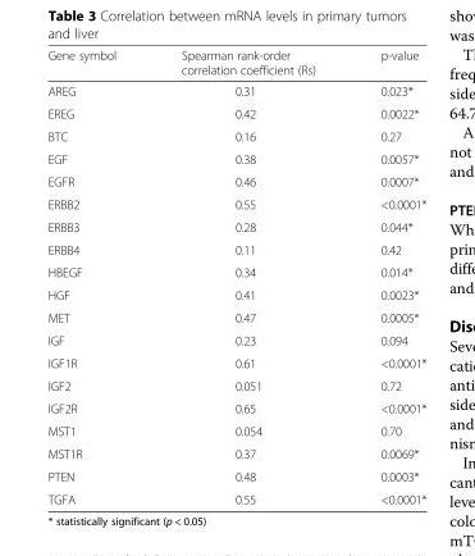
<table><thead><tr><td>Gene symbol</td><td>Spearman rank-order correlation coefficient (Rs)</td><td>p-value</td></tr></thead><tbody><tr><td>AREG</td><td>0.31</td><td>0.023*</td></tr><tr><td>EREG</td><td>0.42</td><td>0.0022*</td></tr><tr><td>BTC</td><td>0.16</td><td>0.27</td></tr><tr><td>EGF</td><td>0.38</td><td>0.0057*</td></tr><tr><td>EGFR</td><td>0.46</td><td>0.0007*</td></tr><tr><td>ERBB2</td><td>0.55</td><td>&lt;0.0001*</td></tr><tr><td>ERBB3</td><td>0.28</td><td>0.044*</td></tr><tr><td>ERBB4</td><td>0.11</td><td>0.42</td></tr><tr><td>HBEGF</td><td>0.34</td><td>0.014*</td></tr><tr><td>HGF</td><td>0.41</td><td>0.0023*</td></tr><tr><td>MET</td><td>0.47</td><td>0.0005*</td></tr><tr><td>IGF</td><td>0.23</td><td>0.094</td></tr><tr><td>IGF1R</td><td>0.61</td><td>&lt;0.0001*</td></tr><tr><td>IGF2</td><td>0.051</td><td>0.72</td></tr><tr><td>IGF2R</td><td>0.65</td><td>&lt;0.0001*</td></tr><tr><td>MST1</td><td>0.054</td><td>0.70</td></tr><tr><td>MST1R</td><td>0.37</td><td>0.0069*</td></tr><tr><td>PTEN</td><td>0.48</td><td>0.0003*</td></tr><tr><td>TGFA</td><td>0.55</td><td>&lt;0.0001*</td></tr></tbody></table>